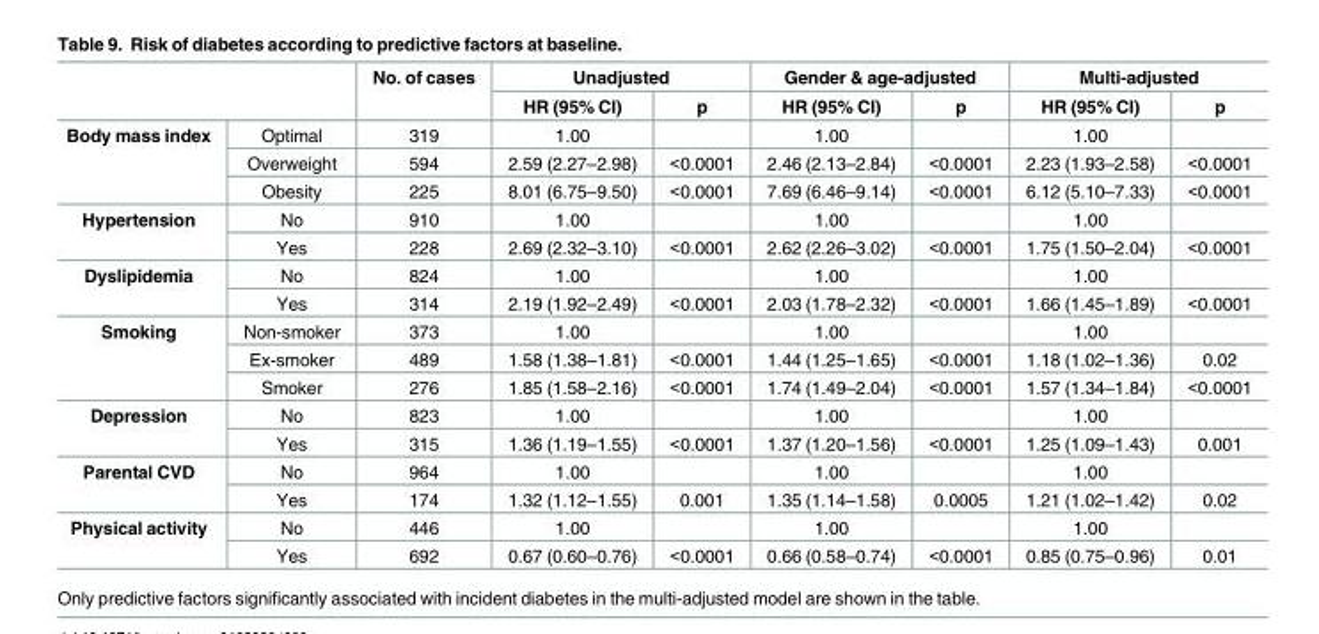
<table><thead><tr><td rowspan="2"></td><td rowspan="2"></td><td rowspan="2">No. of cases</td><td colspan="2">Unadjusted</td><td colspan="2">Gender &amp; age-adjusted</td><td colspan="2">Multi-adjusted</td></tr><tr><td>HR (95% CI)</td><td>p</td><td>HR (95% CI)</td><td>p</td><td>HR (95% CI)</td><td>p</td></tr></thead><tbody><tr><td rowspan="3">Body mass index</td><td>Optimal</td><td>319</td><td>1.00</td><td></td><td>1.00</td><td></td><td>1.00</td><td></td></tr><tr><td>Overweight</td><td>594</td><td>2.59 (2.27–2.98)</td><td>&lt;0.0001</td><td>2.46 (2.13–2.84)</td><td>&lt;0.0001</td><td>2.23 (1.93–2.58)</td><td>&lt;0.0001</td></tr><tr><td>Obesity</td><td>225</td><td>8.01 (6.75–9.50)</td><td>&lt;0.0001</td><td>7.69 (6.46–9.14)</td><td>&lt;0.0001</td><td>6.12 (5.10–7.33)</td><td>&lt;0.0001</td></tr><tr><td rowspan="2">Hypertension</td><td>No</td><td>910</td><td>1.00</td><td></td><td>1.00</td><td></td><td>1.00</td><td></td></tr><tr><td>Yes</td><td>228</td><td>2.69 (2.32–3.10)</td><td>&lt;0.0001</td><td>2.62 (2.26–3.02)</td><td>&lt;0.0001</td><td>1.75 (1.50–2.04)</td><td>&lt;0.0001</td></tr><tr><td rowspan="2">Dyslipidemia</td><td>No</td><td>824</td><td>1.00</td><td></td><td>1.00</td><td></td><td>1.00</td><td></td></tr><tr><td>Yes</td><td>314</td><td>2.19 (1.92–2.49)</td><td>&lt;0.0001</td><td>2.03 (1.78–2.32)</td><td>&lt;0.0001</td><td>1.66 (1.45–1.89)</td><td>&lt;0.0001</td></tr><tr><td rowspan="3">Smoking</td><td>Non-smoker</td><td>373</td><td>1.00</td><td></td><td>1.00</td><td></td><td>1.00</td><td></td></tr><tr><td>Ex-smoker</td><td>489</td><td>1.58 (1.38–1.81)</td><td>&lt;0.0001</td><td>1.44 (1.25–1.65)</td><td>&lt;0.0001</td><td>1.18 (1.02–1.36)</td><td>0.02</td></tr><tr><td>Smoker</td><td>276</td><td>1.85 (1.58–2.16)</td><td>&lt;0.0001</td><td>1.74 (1.49–2.04)</td><td>&lt;0.0001</td><td>1.57 (1.34–1.84)</td><td>&lt;0.0001</td></tr><tr><td rowspan="2">Depression</td><td>No</td><td>823</td><td>1.00</td><td></td><td>1.00</td><td></td><td>1.00</td><td></td></tr><tr><td>Yes</td><td>315</td><td>1.36 (1.19–1.55)</td><td>&lt;0.0001</td><td>1.37 (1.20–1.56)</td><td>&lt;0.0001</td><td>1.25 (1.09–1.43)</td><td>0.001</td></tr><tr><td rowspan="2">Parental CVD</td><td>No</td><td>964</td><td>1.00</td><td></td><td>1.00</td><td></td><td>1.00</td><td></td></tr><tr><td>Yes</td><td>174</td><td>1.32 (1.12–1.55)</td><td>0.001</td><td>1.35 (1.14–1.58)</td><td>0.0005</td><td>1.21 (1.02–1.42)</td><td>0.02</td></tr><tr><td rowspan="2">Physical activity</td><td>No</td><td>446</td><td>1.00</td><td></td><td>1.00</td><td></td><td>1.00</td><td></td></tr><tr><td>Yes</td><td>692</td><td>0.67 (0.60–0.76)</td><td>&lt;0.0001</td><td>0.66 (0.58–0.74)</td><td>&lt;0.0001</td><td>0.85 (0.75–0.96)</td><td>0.01</td></tr></tbody></table>